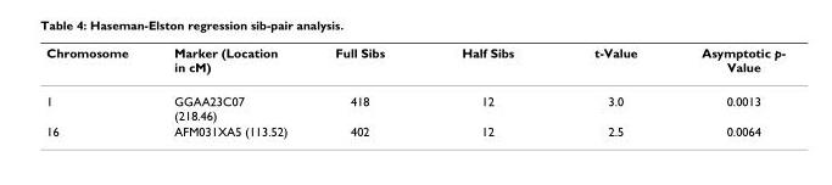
<table><thead><tr><td>Chromosome</td><td>Marker (Location in cM)</td><td>Full Sibs</td><td>Half Sibs</td><td>t-Value</td><td>Asymptotic p- Value</td></tr></thead><tbody><tr><td>1</td><td>GGAA23C07 (218.46)</td><td>418</td><td>12</td><td>3.0</td><td>0.0013</td></tr><tr><td>16</td><td>AFM031XA5 (113.52)</td><td>402</td><td>12</td><td>2.5</td><td>0.0064</td></tr></tbody></table>